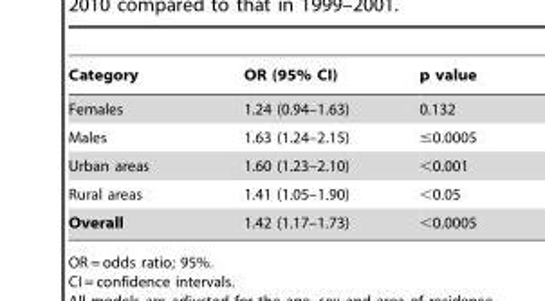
<table><thead><tr><td>Category</td><td>OR (95% CI)</td><td>p value</td></tr></thead><tbody><tr><td>Females</td><td>1.24 (0.94–1.63)</td><td>0.132</td></tr><tr><td>Males</td><td>1.63 (1.24–2.15)</td><td>≤0.0005</td></tr><tr><td>Urban areas</td><td>1.60 (1.23–2.10)</td><td>&lt;0.001</td></tr><tr><td>Rural areas</td><td>1.41 (1.05–1.90)</td><td>&lt;0.05</td></tr><tr><td>Overall</td><td>1.42 (1.17–1.73)</td><td>&lt;0.0005</td></tr></tbody></table>